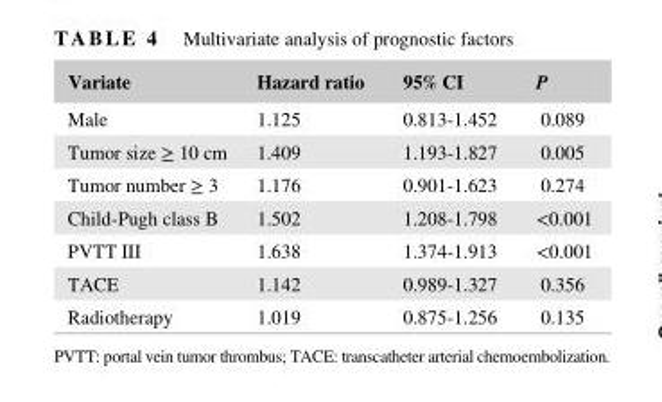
<table><thead><tr><td>Variate</td><td>Hazard ratio</td><td>95% CI</td><td>P</td></tr></thead><tbody><tr><td>Male</td><td>1.125</td><td>0.813- 1.452</td><td>0.089</td></tr><tr><td>Tumor size ≥ 10 cm</td><td>1.409</td><td>1.193- 1.827</td><td>0.005</td></tr><tr><td>Tumor number ≥ 3</td><td>1.176</td><td>0.901- 1.623</td><td>0.274</td></tr><tr><td>Child- Pugh class B</td><td>1.502</td><td>1.208- 1.798</td><td>&lt;0.001</td></tr><tr><td>PVTT III</td><td>1.638</td><td>1.374- 1.913</td><td>&lt;0.001</td></tr><tr><td>TACE</td><td>1.142</td><td>0.989- 1.327</td><td>0.356</td></tr><tr><td>Radiotherapy</td><td>1.019</td><td>0.875- 1.256</td><td>0.135</td></tr></tbody></table>